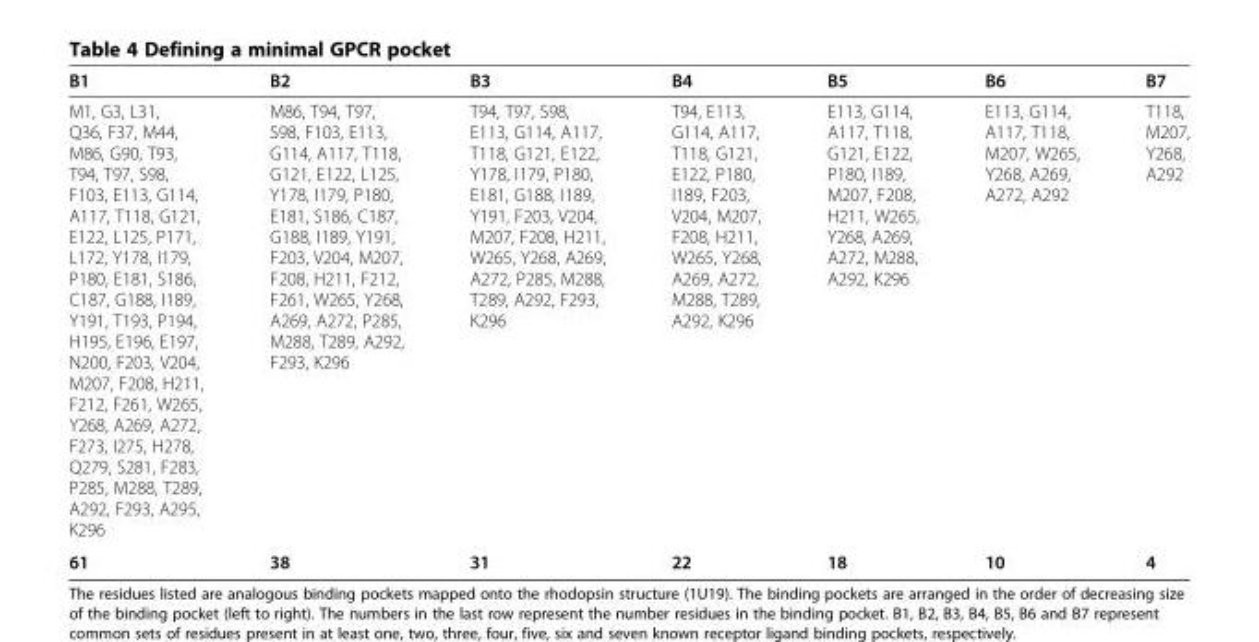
<table><thead><tr><td>B1</td><td>B2</td><td>B3</td><td>B4</td><td>B5</td><td>B6</td><td>B7</td></tr></thead><tbody><tr><td>M1, G3, L31, Q36, F37, M44, M86, G90, T93, T94, T97, S98, F103, E113, G114, A117, T118, G121, E122, L125, P171, L172, Y178, I179, P180, E181, S186, C187, G188, I189, Y191, T193, P194, H195, E196, E197, N200, F203, V204, M207, F208, H211, F212, F261, W265, Y268, A269, A272, F273, I275, H278, Q279, S281, F283, P285, M288, T289, A292, F293, A295, K296</td><td>M86, T94, T97, S98, F103, E113, G114, A117, T118, G121, E122, L125, Y178, I179, P180, E181, S186, C187, G188, I189, Y191, F203, V204, M207, F208, H211, F212, F261, W265, Y268, A269, A272, P285, M288, T289, A292, F293, K296</td><td>T94, T97, S98, E113, G114, A117, T118, G121, E122, Y178, I179, P180, E181, G188, I189, Y191, F203, V204, M207, F208, H211, W265, Y268, A269, A272, P285, M288, T289, A292, F293, K296</td><td>T94, E113, G114, A117, T118, G121, E122, P180, I189, F203, V204, M207, F208, H211, W265, Y268, A269, A272, M288, T289, A292, K296</td><td>E113, G114, A117, T118, G121, E122, P180, I189, M207, F208, H211, W265, Y268, A269, A272, M288, A292, K296</td><td>E113, G114, A117, T118, M207, W265, Y268, A269, A272, A292</td><td>T118, M207, Y268, A292</td></tr><tr><td>61</td><td>38</td><td>31</td><td>22</td><td>18</td><td>10</td><td>4</td></tr></tbody></table>